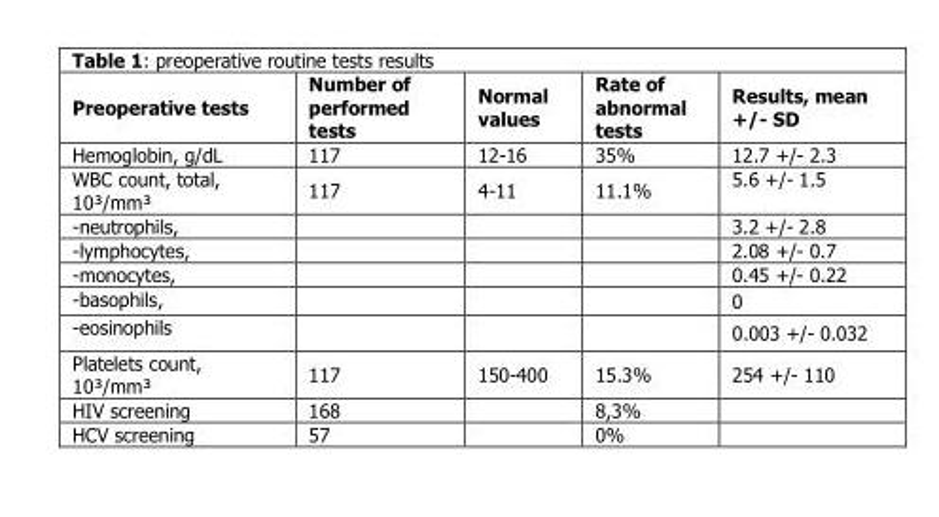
<table><thead><tr><td>Preoperative tests</td><td>Number of performed tests</td><td>Normal values</td><td>Rate of abnormal tests</td><td>Results, mean +/- SD</td></tr></thead><tbody><tr><td>Hemoglobin, g/dL</td><td>117</td><td>12-16</td><td>35%</td><td>12.7 +/- 2.3</td></tr><tr><td>WBC count, total, 10³/mm³</td><td>117</td><td>4-11</td><td>11.1%</td><td>5.6 +/- 1.5</td></tr><tr><td>-neutrophils,</td><td></td><td></td><td></td><td>3.2 +/- 2.8</td></tr><tr><td>-lymphocytes,</td><td></td><td></td><td></td><td>2.08 +/- 0.7</td></tr><tr><td>-monocytes,</td><td></td><td></td><td></td><td>0.45 +/- 0.22</td></tr><tr><td>-basophils,</td><td></td><td></td><td></td><td>0</td></tr><tr><td>-eosinophils</td><td></td><td></td><td></td><td>0.003 +/- 0.032</td></tr><tr><td>Platelets count, 10³/mm³</td><td>117</td><td>150-400</td><td>15.3%</td><td>254 +/- 110</td></tr><tr><td>HIV screening</td><td>168</td><td></td><td>8,3%</td><td></td></tr><tr><td>HCV screening</td><td>57</td><td></td><td>0%</td><td></td></tr></tbody></table>